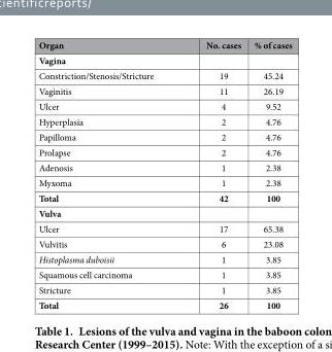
<table><thead><tr><td>Organ</td><td>No. cases</td><td>% of cases</td></tr></thead><tbody><tr><td colspan="3">Vagina</td></tr><tr><td>Constriction/Stenosis/Stricture</td><td>19</td><td>45.24</td></tr><tr><td>Vaginitis</td><td>11</td><td>26.19</td></tr><tr><td>Ulcer</td><td>4</td><td>9.52</td></tr><tr><td>Hyperplasia</td><td>2</td><td>4.76</td></tr><tr><td>Papilloma</td><td>2</td><td>4.76</td></tr><tr><td>Prolapse</td><td>2</td><td>4.76</td></tr><tr><td>Adenosis</td><td>1</td><td>2.38</td></tr><tr><td>Myxoma</td><td>1</td><td>2.38</td></tr><tr><td>Total</td><td>42</td><td>100</td></tr><tr><td colspan="3">Vulva</td></tr><tr><td>Ulcer</td><td>17</td><td>65.38</td></tr><tr><td>Vulvitis</td><td>6</td><td>23.08</td></tr><tr><td>Histoplasma duboisii</td><td>1</td><td>3.85</td></tr><tr><td>Squamous cell carcinoma</td><td>1</td><td>3.85</td></tr><tr><td>Stricture</td><td>1</td><td>3.85</td></tr><tr><td>Total</td><td>26</td><td>100</td></tr></tbody></table>